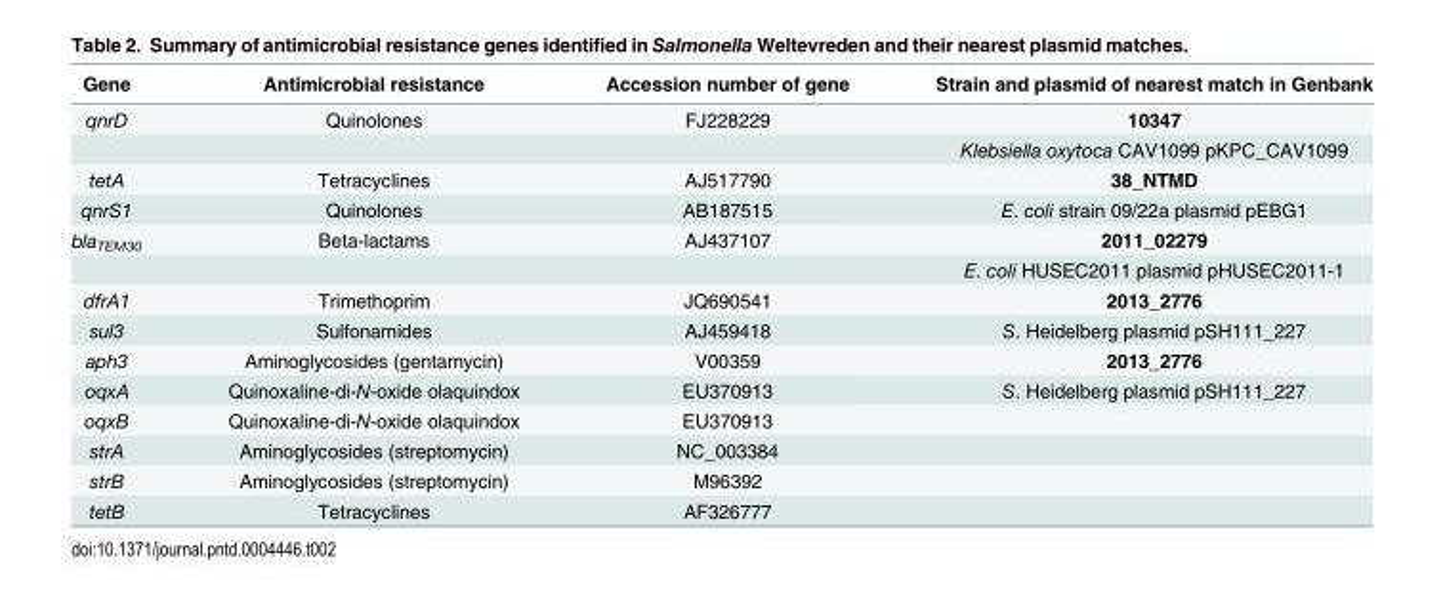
<table><thead><tr><td>Gene</td><td>Antimicrobial resistance</td><td>Accession number of gene</td><td>Strain and plasmid of nearest match in Genbank</td></tr></thead><tbody><tr><td rowspan="2">qnrD</td><td>Quinolones</td><td>FJ228229</td><td>10347</td></tr><tr><td></td><td></td><td>Klebsiella oxytoca CAV1099 pKPC_CAV1099</td></tr><tr><td>tetA</td><td>Tetracyclines</td><td>AJ517790</td><td>38_NTMD</td></tr><tr><td>qnrS1</td><td>Quinolones</td><td>AB187515</td><td>E. coli strain 09/22a plasmid pEBG1</td></tr><tr><td rowspan="2">bla<sub>TEM30</sub></td><td>Beta-lactams</td><td>AJ437107</td><td>2011_02279</td></tr><tr><td></td><td></td><td>E. coli HUSEC2011 plasmid pHUSEC2011-1</td></tr><tr><td>dfrA1</td><td>Trimethoprim</td><td>JQ690541</td><td>2013_2776</td></tr><tr><td>sul3</td><td>Sulfonamides</td><td>AJ459418</td><td>S. Heidelberg plasmid pSH111_227</td></tr><tr><td>aph3</td><td>Aminoglycosides (gentamycin)</td><td>V00359</td><td>2013_2776</td></tr><tr><td>oqxA</td><td>Quinoxaline-di-N-oxide olaquindox</td><td>EU370913</td><td>S. Heidelberg plasmid pSH111_227</td></tr><tr><td>oqxB</td><td>Quinoxaline-di-N-oxide olaquindox</td><td>EU370913</td><td></td></tr><tr><td>strA</td><td>Aminoglycosides (streptomycin)</td><td>NC_003384</td><td></td></tr><tr><td>strB</td><td>Aminoglycosides (streptomycin)</td><td>M96392</td><td></td></tr><tr><td>tetB</td><td>Tetracyclines</td><td>AF326777</td><td></td></tr></tbody></table>